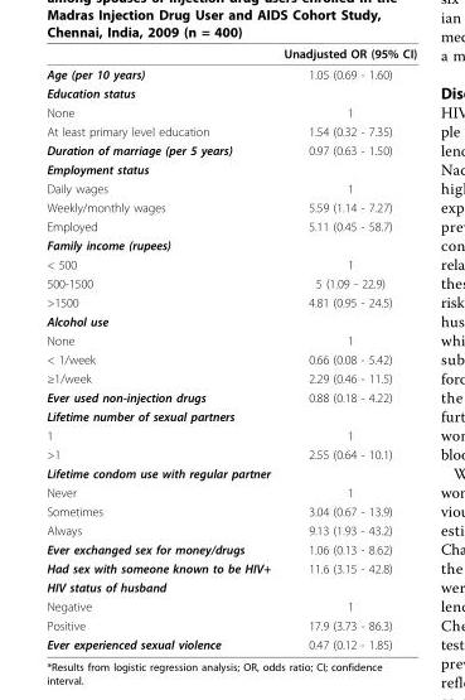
<table><thead><tr><td></td><td>Unadjusted OR (95% CI)</td></tr></thead><tbody><tr><td>Age (per 10 years)</td><td>1.05 (0.69 - 1.60)</td></tr><tr><td colspan="2">Education status</td></tr><tr><td>None</td><td>1</td></tr><tr><td>At least primary level education</td><td>1.54 (0.32 - 7.35)</td></tr><tr><td>Duration of marriage (per 5 years)</td><td>0.97 (0.63 - 1.50)</td></tr><tr><td colspan="2">Employment status</td></tr><tr><td>Daily wages</td><td>1</td></tr><tr><td>Weekly/monthly wages</td><td>5.59 (1.14 - 7.27)</td></tr><tr><td>Employed</td><td>5.11 (0.45 - 58.7)</td></tr><tr><td colspan="2">Family income (rupees)</td></tr><tr><td>&lt; 500</td><td>1</td></tr><tr><td>500-1500</td><td>5 (1.09 - 22.9)</td></tr><tr><td>&gt;1500</td><td>4.81 (0.95 - 24.5)</td></tr><tr><td colspan="2">Alcohol use</td></tr><tr><td>None</td><td>1</td></tr><tr><td>&lt; 1/week</td><td>0.66 (0.08 - 5.42)</td></tr><tr><td>≥1/week</td><td>2.29 (0.46 - 11.5)</td></tr><tr><td>Ever used non-injection drugs</td><td>0.88 (0.18 - 4.22)</td></tr><tr><td colspan="2">Lifetime number of sexual partners</td></tr><tr><td>1</td><td>1</td></tr><tr><td>&gt;1</td><td>2.55 (0.64 - 10.1)</td></tr><tr><td colspan="2">Lifetime condom use with regular partner</td></tr><tr><td>Never</td><td>1</td></tr><tr><td>Sometimes</td><td>3.04 (0.67 - 13.9)</td></tr><tr><td>Always</td><td>9.13 (1.93 - 43.2)</td></tr><tr><td>Ever exchanged sex for money/drugs</td><td>1.06 (0.13 - 8.62)</td></tr><tr><td>Had sex with someone known to be HIV+</td><td>11.6 (3.15 - 42.8)</td></tr><tr><td colspan="2">HIV status of husband</td></tr><tr><td>Negative</td><td>1</td></tr><tr><td>Positive</td><td>17.9 (3.73 - 86.3)</td></tr><tr><td>Ever experienced sexual violence</td><td>0.47 (0.12 - 1.85)</td></tr></tbody></table>